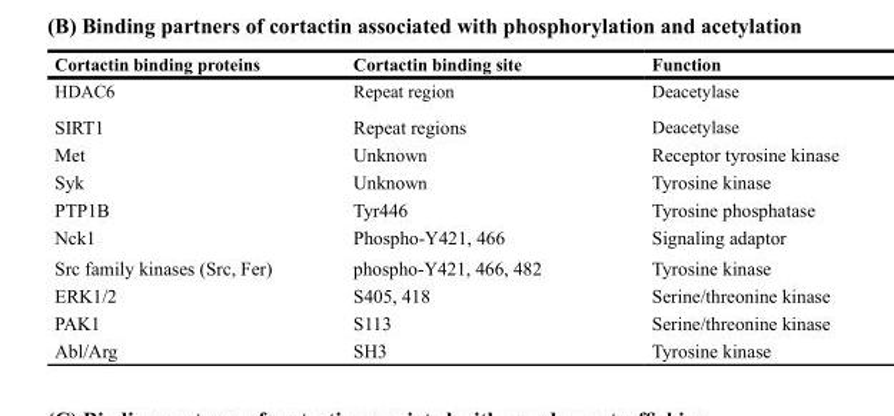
<table><thead><tr><td>Cortactin binding proteins</td><td>Cortactin binding site</td><td>Function</td></tr></thead><tbody><tr><td>HDAC6</td><td>Repeat region</td><td>Deacetylase</td></tr><tr><td>SIRT1</td><td>Repeat regions</td><td>Deacetylase</td></tr><tr><td>Met</td><td>Unknown</td><td>Receptor tyrosine kinase</td></tr><tr><td>Syk</td><td>Unknown</td><td>Tyrosine kinase</td></tr><tr><td>PTP1B</td><td>Tyr446</td><td>Tyrosine phosphatase</td></tr><tr><td>Nck1</td><td>Phospho-Y421, 466</td><td>Signaling adaptor</td></tr><tr><td>Src family kinases (Src, Fer)</td><td>phospho-Y421, 466, 482</td><td>Tyrosine kinase</td></tr><tr><td>ERK1/2</td><td>S405, 418</td><td>Serine/threonine kinase</td></tr><tr><td>PAK1</td><td>S113</td><td>Serine/threonine kinase</td></tr><tr><td>Abl/Arg</td><td>SH3</td><td>Tyrosine kinase</td></tr></tbody></table>